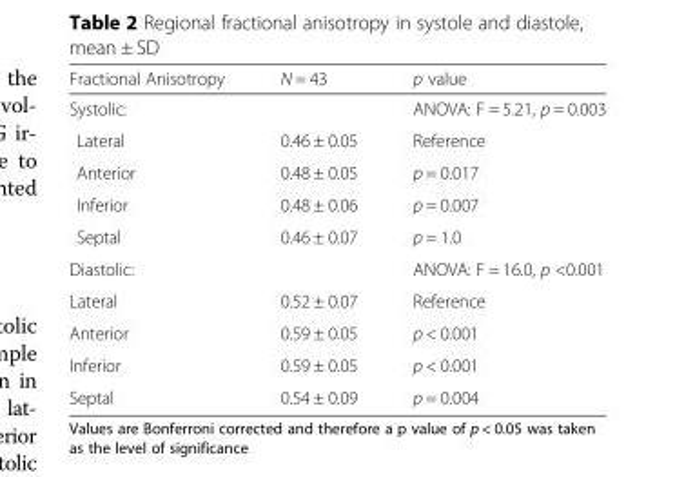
<table><thead><tr><td>Fractional Anisotropy</td><td>N = 43</td><td>p value</td></tr></thead><tbody><tr><td>Systolic:</td><td></td><td>ANOVA: F = 5.21, p = 0.003</td></tr><tr><td>Lateral</td><td>0.46 ± 0.05</td><td>Reference</td></tr><tr><td>Anterior</td><td>0.48 ± 0.05</td><td>p = 0.017</td></tr><tr><td>Inferior</td><td>0.48 ± 0.06</td><td>p = 0.007</td></tr><tr><td>Septal</td><td>0.46 ± 0.07</td><td>p = 1.0</td></tr><tr><td>Diastolic:</td><td></td><td>ANOVA: F = 16.0, p &lt;0.001</td></tr><tr><td>Lateral</td><td>0.52 ± 0.07</td><td>Reference</td></tr><tr><td>Anterior</td><td>0.59 ± 0.05</td><td>p &lt; 0.001</td></tr><tr><td>Inferior</td><td>0.59 ± 0.05</td><td>p &lt; 0.001</td></tr><tr><td>Septal</td><td>0.54 ± 0.09</td><td>p = 0.004</td></tr></tbody></table>